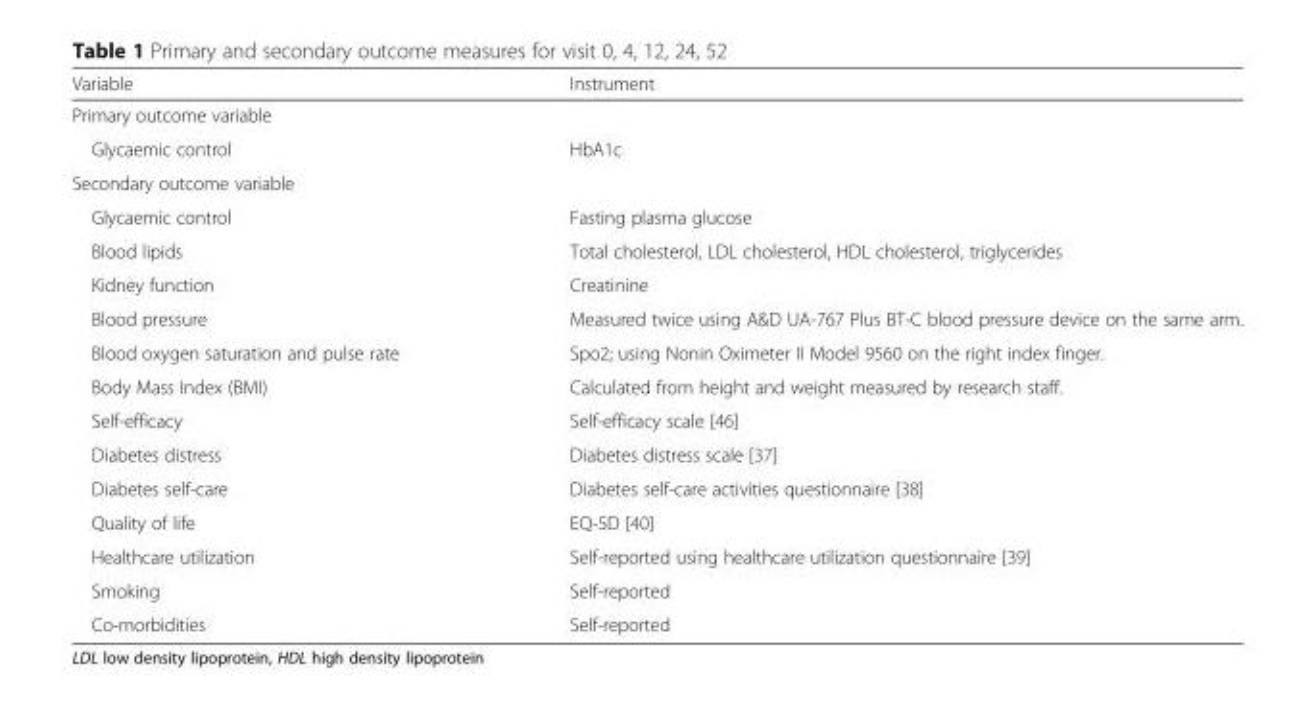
<table><thead><tr><td>Variable</td><td>Instrument</td></tr></thead><tbody><tr><td colspan="2">Primary outcome variable</td></tr><tr><td>Glycaemic control</td><td>HbA1c</td></tr><tr><td colspan="2">Secondary outcome variable</td></tr><tr><td>Glycaemic control</td><td>Fasting plasma glucose</td></tr><tr><td>Blood lipids</td><td>Total cholesterol, LDL cholesterol, HDL cholesterol, triglycerides</td></tr><tr><td>Kidney function</td><td>Creatinine</td></tr><tr><td>Blood pressure</td><td>Measured twice using A&amp;D UA-767 Plus BT-C blood pressure device on the same arm.</td></tr><tr><td>Blood oxygen saturation and pulse rate</td><td>Spo2; using Nonin Oximeter II Model 9560 on the right index finger.</td></tr><tr><td>Body Mass Index (BMI)</td><td>Calculated from height and weight measured by research staff.</td></tr><tr><td>Self-efficacy</td><td>Self-efficacy scale [46]</td></tr><tr><td>Diabetes distress</td><td>Diabetes distress scale [37]</td></tr><tr><td>Diabetes self-care</td><td>Diabetes self-care activities questionnaire [38]</td></tr><tr><td>Quality of life</td><td>EQ-5D [40]</td></tr><tr><td>Healthcare utilization</td><td>Self-reported using healthcare utilization questionnaire [39]</td></tr><tr><td>Smoking</td><td>Self-reported</td></tr><tr><td>Co-morbidities</td><td>Self-reported</td></tr></tbody></table>